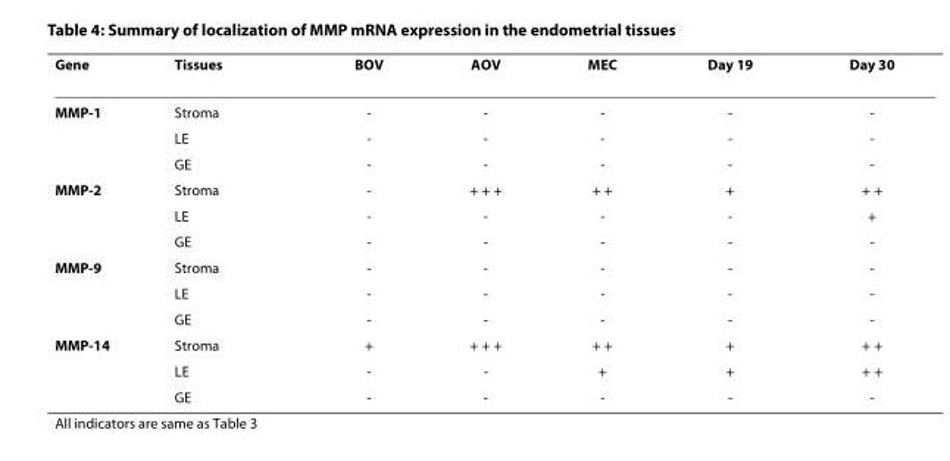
<table><thead><tr><td>Gene</td><td>Tissues</td><td>BOV</td><td>AOV</td><td>MEC</td><td>Day 19</td><td>Day 30</td></tr></thead><tbody><tr><td rowspan="3">MMP-1</td><td>Stroma</td><td>-</td><td>-</td><td>-</td><td>-</td><td>-</td></tr><tr><td>LE</td><td>-</td><td>-</td><td>-</td><td>-</td><td>-</td></tr><tr><td>GE</td><td>-</td><td>-</td><td>-</td><td>-</td><td>-</td></tr><tr><td rowspan="3">MMP-2</td><td>Stroma</td><td>-</td><td>+ + +</td><td>+ +</td><td>+</td><td>+ +</td></tr><tr><td>LE</td><td>-</td><td>-</td><td>-</td><td>-</td><td>+</td></tr><tr><td>GE</td><td>-</td><td>-</td><td>-</td><td>-</td><td>-</td></tr><tr><td rowspan="3">MMP-9</td><td>Stroma</td><td>-</td><td>-</td><td>-</td><td>-</td><td>-</td></tr><tr><td>LE</td><td>-</td><td>-</td><td>-</td><td>-</td><td>-</td></tr><tr><td>GE</td><td>-</td><td>-</td><td>-</td><td>-</td><td>-</td></tr><tr><td rowspan="3">MMP-14</td><td>Stroma</td><td>+</td><td>+ + +</td><td>+ +</td><td>+</td><td>+ +</td></tr><tr><td>LE</td><td>-</td><td>-</td><td>+</td><td>+</td><td>+ +</td></tr><tr><td>GE</td><td>-</td><td>-</td><td>-</td><td>-</td><td>-</td></tr></tbody></table>